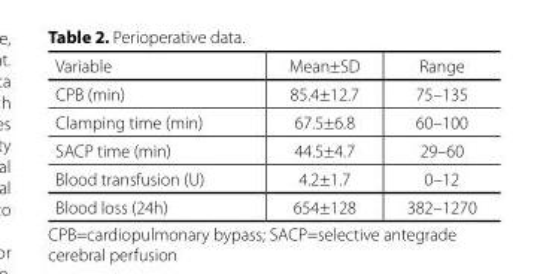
<table><thead><tr><td>Variable</td><td>Mean±SD</td><td>Range</td></tr></thead><tbody><tr><td>CPB (min)</td><td>85.4±12.7</td><td>75–135</td></tr><tr><td>Clamping time (min)</td><td>67.5±6.8</td><td>60–100</td></tr><tr><td>SACP time (min)</td><td>44.5±4.7</td><td>29–60</td></tr><tr><td>Blood transfusion (U)</td><td>4.2±1.7</td><td>0–12</td></tr><tr><td>Blood loss (24h)</td><td>654±128</td><td>382–1270</td></tr></tbody></table>